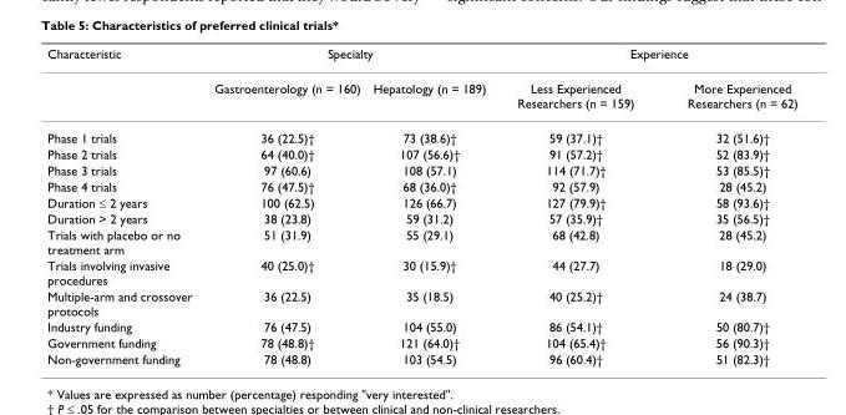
<table><thead><tr><td rowspan="2">Characteristic</td><td colspan="2">Specialty</td><td colspan="2">Experience</td></tr><tr><td>Gastroenterology (n = 160)</td><td>Hepatology (n = 189)</td><td>Less Experienced Researchers (n = 159)</td><td>More Experienced Researchers (n = 62)</td></tr></thead><tbody><tr><td>Phase 1 trials</td><td>36 (22.5)†</td><td>73 (38.6)†</td><td>59 (37.1)†</td><td>32 (51.6)†</td></tr><tr><td>Phase 2 trials</td><td>64 (40.0)†</td><td>107 (56.6)†</td><td>91 (57.2)†</td><td>52 (83.9)†</td></tr><tr><td>Phase 3 trials</td><td>97 (60.6)</td><td>108 (57.1)</td><td>114 (71.7)†</td><td>53 (85.5)†</td></tr><tr><td>Phase 4 trials</td><td>76 (47.5)†</td><td>68 (36.0)†</td><td>92 (57.9)</td><td>28 (45.2)</td></tr><tr><td>Duration ≤ 2 years</td><td>100 (62.5)</td><td>126 (66.7)</td><td>127 (79.9)†</td><td>58 (93.6)†</td></tr><tr><td>Duration &gt; 2 years</td><td>38 (23.8)</td><td>59 (31.2)</td><td>57 (35.9)†</td><td>35 (56.5)†</td></tr><tr><td>Trials with placebo or no treatment arm</td><td>51 (31.9)</td><td>55 (29.1)</td><td>68 (42.8)</td><td>28 (45.2)</td></tr><tr><td>Trials involving invasive procedures</td><td>40 (25.0)†</td><td>30 (15.9)†</td><td>44 (27.7)</td><td>18 (29.0)</td></tr><tr><td>Multiple-arm and crossover protocols</td><td>36 (22.5)</td><td>35 (18.5)</td><td>40 (25.2)†</td><td>24 (38.7)</td></tr><tr><td>Industry funding</td><td>76 (47.5)</td><td>104 (55.0)</td><td>86 (54.1)†</td><td>50 (80.7)†</td></tr><tr><td>Government funding</td><td>78 (48.8)†</td><td>121 (64.0)†</td><td>104 (65.4)†</td><td>56 (90.3)†</td></tr><tr><td>Non-government funding</td><td>78 (48.8)</td><td>103 (54.5)</td><td>96 (60.4)†</td><td>51 (82.3)†</td></tr></tbody></table>